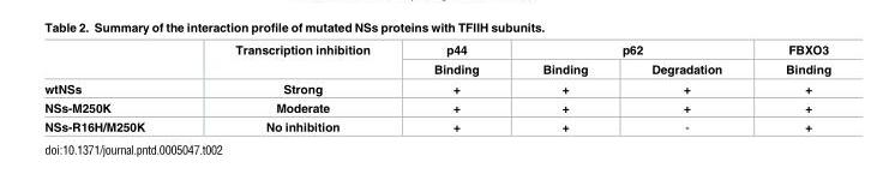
<table><thead><tr><td rowspan="2"></td><td rowspan="2">Transcription inhibition</td><td rowspan="2">p44 Binding</td><td colspan="2">p62</td><td rowspan="2">FBXO3 Binding</td></tr><tr><td>Binding</td><td>Degradation</td></tr></thead><tbody><tr><td>wtNSs</td><td>Strong</td><td>+</td><td>+</td><td>+</td><td>+</td></tr><tr><td>NSs-M250K</td><td>Moderate</td><td>+</td><td>+</td><td>+</td><td>+</td></tr><tr><td>NSs-R16H/M250K</td><td>No inhibition</td><td>+</td><td>+</td><td>-</td><td>+</td></tr></tbody></table>